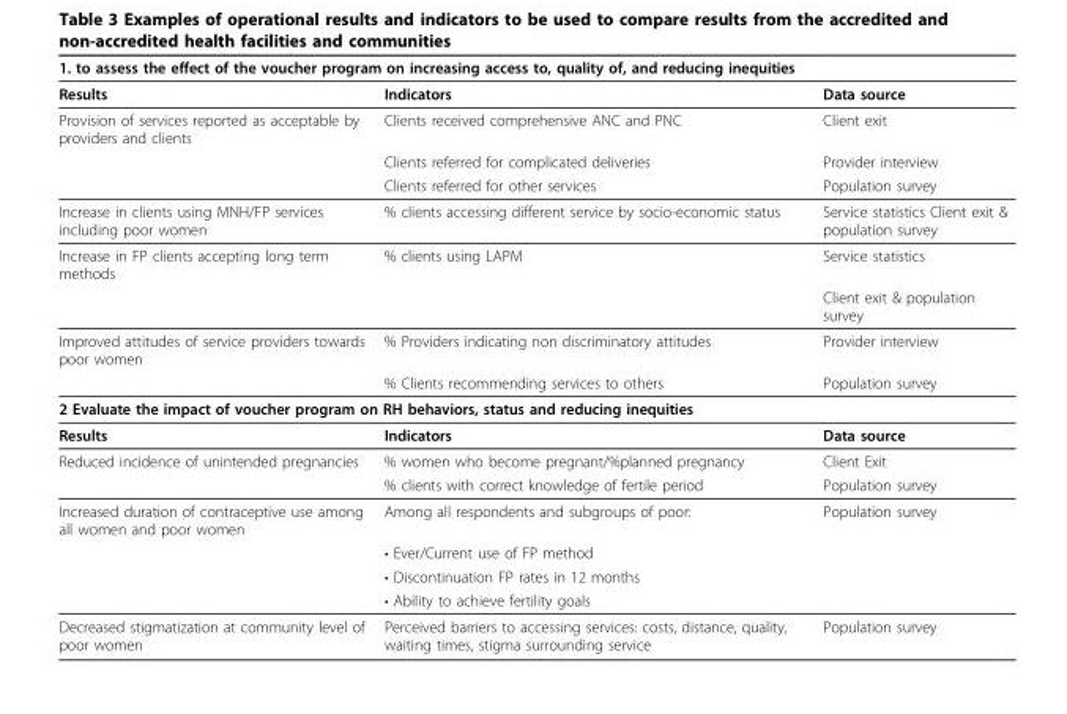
<table><thead><tr><td colspan="3">1. to assess the effect of the voucher program on increasing access to, quality of, and reducing inequities</td></tr><tr><td>Results</td><td>Indicators</td><td>Data source</td></tr></thead><tbody><tr><td rowspan="3">Provision of services reported as acceptable by providers and clients</td><td>Clients received comprehensive ANC and PNC</td><td>Client exit</td></tr><tr><td>Clients referred for complicated deliveries</td><td>Provider interview</td></tr><tr><td>Clients referred for other services</td><td>Population survey</td></tr><tr><td>Increase in clients using MNH/FP services including poor women</td><td>% clients accessing different service by socio-economic status</td><td>Service statistics Client exit &amp; population survey</td></tr><tr><td rowspan="2">Increase in FP clients accepting long term methods</td><td>% clients using LAPM</td><td>Service statistics</td></tr><tr><td></td><td>Client exit &amp; population survey</td></tr><tr><td rowspan="2">Improved attitudes of service providers towards poor women</td><td>% Providers indicating non discriminatory attitudes</td><td>Provider interview</td></tr><tr><td>% Clients recommending services to others</td><td>Population survey</td></tr><tr><td colspan="3">2 Evaluate the impact of voucher program on RH behaviors, status and reducing inequities</td></tr><tr><td>Results</td><td>Indicators</td><td>Data source</td></tr><tr><td rowspan="2">Reduced incidence of unintended pregnancies</td><td>% women who become pregnant/%planned pregnancy</td><td>Client Exit</td></tr><tr><td>% clients with correct knowledge of fertile period</td><td>Population survey</td></tr><tr><td rowspan="4">Increased duration of contraceptive use among all women and poor women</td><td>Among all respondents and subgroups of poor:</td><td>Population survey</td></tr><tr><td>• Ever/Current use of FP method</td><td></td></tr><tr><td>• Discontinuation FP rates in 12 months</td><td></td></tr><tr><td>• Ability to achieve fertility goals</td><td></td></tr><tr><td>Decreased stigmatization at community level of poor women</td><td>Perceived barriers to accessing services: costs, distance, quality, waiting times, stigma surrounding service</td><td>Population survey</td></tr></tbody></table>